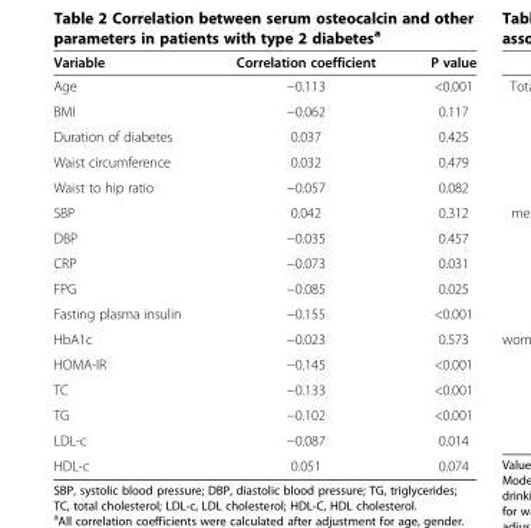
<table><thead><tr><td>Variable</td><td>Correlation coefficient</td><td>P value</td></tr></thead><tbody><tr><td>Age</td><td>−0.113</td><td>&lt;0.001</td></tr><tr><td>BMI</td><td>−0.062</td><td>0.117</td></tr><tr><td>Duration of diabetes</td><td>0.037</td><td>0.425</td></tr><tr><td>Waist circumference</td><td>0.032</td><td>0.479</td></tr><tr><td>Waist to hip ratio</td><td>−0.057</td><td>0.082</td></tr><tr><td>SBP</td><td>0.042</td><td>0.312</td></tr><tr><td>DBP</td><td>−0.035</td><td>0.457</td></tr><tr><td>CRP</td><td>−0.073</td><td>0.031</td></tr><tr><td>FPG</td><td>−0.085</td><td>0.025</td></tr><tr><td>Fasting plasma insulin</td><td>−0.155</td><td>&lt;0.001</td></tr><tr><td>HbA1c</td><td>−0.023</td><td>0.573</td></tr><tr><td>HOMA-IR</td><td>−0.145</td><td>&lt;0.001</td></tr><tr><td>TC</td><td>−0.133</td><td>&lt;0.001</td></tr><tr><td>TG</td><td>−0.102</td><td>&lt;0.001</td></tr><tr><td>LDL-c</td><td>−0.087</td><td>0.014</td></tr><tr><td>HDL-c</td><td>0.051</td><td>0.074</td></tr></tbody></table>